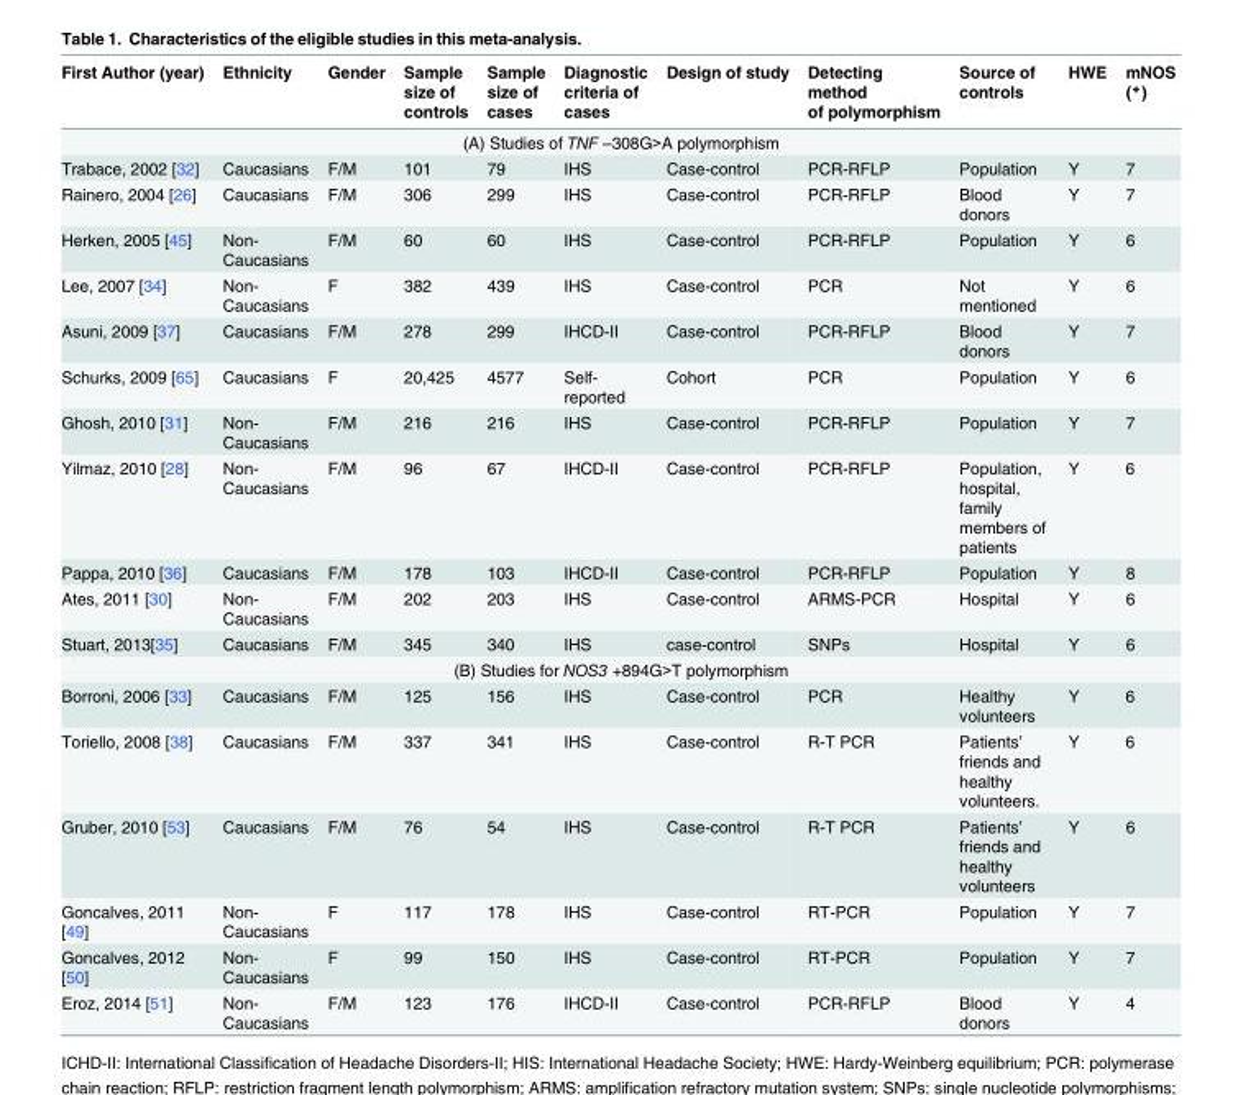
<table><thead><tr><td>First Author (year)</td><td>Ethnicity</td><td>Gender</td><td>Sample size of controls</td><td>Sample size of cases</td><td>Diagnostic criteria of cases</td><td>Design of study</td><td>Detecting method of polymorphism</td><td>Source of controls</td><td>HWE</td><td>mNOS (*)</td></tr></thead><tbody><tr><td colspan="11">(A) Studies of TNF –308G&gt;A polymorphism</td></tr><tr><td>Trabace, 2002 [32]</td><td>Caucasians</td><td>F/M</td><td>101</td><td>79</td><td>IHS</td><td>Case-control</td><td>PCR-RFLP</td><td>Population</td><td>Y</td><td>7</td></tr><tr><td>Rainero, 2004 [26]</td><td>Caucasians</td><td>F/M</td><td>306</td><td>299</td><td>IHS</td><td>Case-control</td><td>PCR-RFLP</td><td>Blood donors</td><td>Y</td><td>7</td></tr><tr><td>Herken, 2005 [45]</td><td>Non- Caucasians</td><td>F/M</td><td>60</td><td>60</td><td>IHS</td><td>Case-control</td><td>PCR-RFLP</td><td>Population</td><td>Y</td><td>6</td></tr><tr><td>Lee, 2007 [34]</td><td>Non- Caucasians</td><td>F</td><td>382</td><td>439</td><td>IHS</td><td>Case-control</td><td>PCR</td><td>Not mentioned</td><td>Y</td><td>6</td></tr><tr><td>Asuni, 2009 [37]</td><td>Caucasians</td><td>F/M</td><td>278</td><td>299</td><td>IHCD-II</td><td>Case-control</td><td>PCR-RFLP</td><td>Blood donors</td><td>Y</td><td>7</td></tr><tr><td>Schurks, 2009 [65]</td><td>Caucasians</td><td>F</td><td>20,425</td><td>4577</td><td>Self- reported</td><td>Cohort</td><td>PCR</td><td>Population</td><td>Y</td><td>6</td></tr><tr><td>Ghosh, 2010 [31]</td><td>Non- Caucasians</td><td>F/M</td><td>216</td><td>216</td><td>IHS</td><td>Case-control</td><td>PCR-RFLP</td><td>Population</td><td>Y</td><td>7</td></tr><tr><td>Yilmaz, 2010 [28]</td><td>Non- Caucasians</td><td>F/M</td><td>96</td><td>67</td><td>IHCD-II</td><td>Case-control</td><td>PCR-RFLP</td><td>Population, hospital, family members of patients</td><td>Y</td><td>6</td></tr><tr><td>Pappa, 2010 [36]</td><td>Caucasians</td><td>F/M</td><td>178</td><td>103</td><td>IHCD-II</td><td>Case-control</td><td>PCR-RFLP</td><td>Population</td><td>Y</td><td>8</td></tr><tr><td>Ates, 2011 [30]</td><td>Non- Caucasians</td><td>F/M</td><td>202</td><td>203</td><td>IHS</td><td>Case-control</td><td>ARMS-PCR</td><td>Hospital</td><td>Y</td><td>6</td></tr><tr><td>Stuart, 2013[35]</td><td>Caucasians</td><td>F/M</td><td>345</td><td>340</td><td>IHS</td><td>case-control</td><td>SNPs</td><td>Hospital</td><td>Y</td><td>6</td></tr><tr><td colspan="11">(B) Studies for NOS3 +894G&gt;T polymorphism</td></tr><tr><td>Borroni, 2006 [33]</td><td>Caucasians</td><td>F/M</td><td>125</td><td>156</td><td>IHS</td><td>Case-control</td><td>PCR</td><td>Healthy volunteers</td><td>Y</td><td>6</td></tr><tr><td>Toriello, 2008 [38]</td><td>Caucasians</td><td>F/M</td><td>337</td><td>341</td><td>IHS</td><td>Case-control</td><td>R-T PCR</td><td>Patients’ friends and healthy volunteers.</td><td>Y</td><td>6</td></tr><tr><td>Gruber, 2010 [53]</td><td>Caucasians</td><td>F/M</td><td>76</td><td>54</td><td>IHS</td><td>Case-control</td><td>R-T PCR</td><td>Patients’ friends and healthy volunteers</td><td>Y</td><td>6</td></tr><tr><td>Goncalves, 2011 [49]</td><td>Non- Caucasians</td><td>F</td><td>117</td><td>178</td><td>IHS</td><td>Case-control</td><td>RT-PCR</td><td>Population</td><td>Y</td><td>7</td></tr><tr><td>Goncalves, 2012 [50]</td><td>Non- Caucasians</td><td>F</td><td>99</td><td>150</td><td>IHS</td><td>Case-control</td><td>RT-PCR</td><td>Population</td><td>Y</td><td>7</td></tr><tr><td>Eroz, 2014 [51]</td><td>Non- Caucasians</td><td>F/M</td><td>123</td><td>176</td><td>IHCD-II</td><td>Case-control</td><td>PCR-RFLP</td><td>Blood donors</td><td>Y</td><td>4</td></tr></tbody></table>